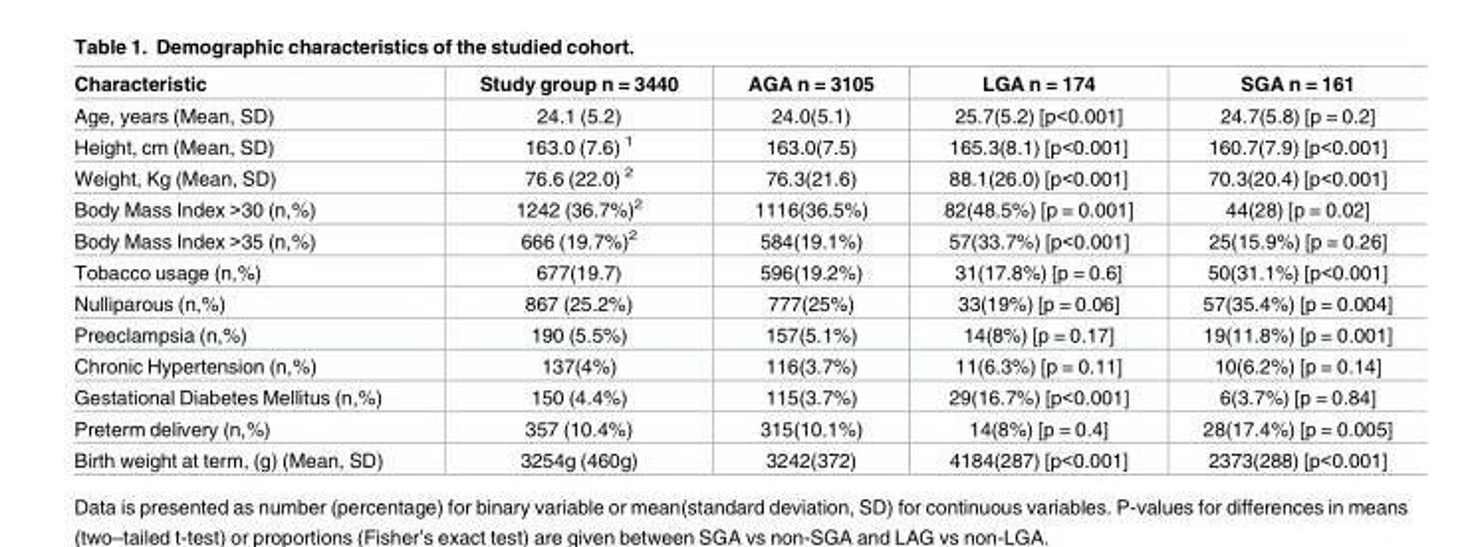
<table><thead><tr><td>Characteristic</td><td>Study group n = 3440</td><td>AGA n = 3105</td><td>LGA n = 174</td><td>SGA n = 161</td></tr></thead><tbody><tr><td>Age, years (Mean, SD)</td><td>24.1 (5.2)</td><td>24.0(5.1)</td><td>25.7(5.2) [p&lt;0.001]</td><td>24.7(5.8) [p = 0.2]</td></tr><tr><td>Height, cm (Mean, SD)</td><td>163.0 (7.6) <sup>1</sup></td><td>163.0(7.5)</td><td>165.3(8.1) [p&lt;0.001]</td><td>160.7(7.9) [p&lt;0.001]</td></tr><tr><td>Weight, Kg (Mean, SD)</td><td>76.6 (22.0) <sup>2</sup></td><td>76.3(21.6)</td><td>88.1(26.0) [p&lt;0.001]</td><td>70.3(20.4) [p&lt;0.001]</td></tr><tr><td>Body Mass Index &gt;30 (n,%)</td><td>1242 (36.7%)<sup>2</sup></td><td>1116(36.5%)</td><td>82(48.5%) [p = 0.001]</td><td>44(28) [p = 0.02]</td></tr><tr><td>Body Mass Index &gt;35 (n,%)</td><td>666 (19.7%)<sup>2</sup></td><td>584(19.1%)</td><td>57(33.7%) [p&lt;0.001]</td><td>25(15.9%) [p = 0.26]</td></tr><tr><td>Tobacco usage (n,%)</td><td>677(19.7)</td><td>596(19.2%)</td><td>31(17.8%) [p = 0.6]</td><td>50(31.1%) [p&lt;0.001]</td></tr><tr><td>Nulliparous (n,%)</td><td>867 (25.2%)</td><td>777(25%)</td><td>33(19%) [p = 0.06]</td><td>57(35.4%) [p = 0.004]</td></tr><tr><td>Preeclampsia (n,%)</td><td>190 (5.5%)</td><td>157(5.1%)</td><td>14(8%) [p = 0.17]</td><td>19(11.8%) [p = 0.001]</td></tr><tr><td>Chronic Hypertension (n,%)</td><td>137(4%)</td><td>116(3.7%)</td><td>11(6.3%) [p = 0.11]</td><td>10(6.2%) [p = 0.14]</td></tr><tr><td>Gestational Diabetes Mellitus (n,%)</td><td>150 (4.4%)</td><td>115(3.7%)</td><td>29(16.7%) [p&lt;0.001]</td><td>6(3.7%) [p = 0.84]</td></tr><tr><td>Preterm delivery (n,%)</td><td>357 (10.4%)</td><td>315(10.1%)</td><td>14(8%) [p = 0.4]</td><td>28(17.4%) [p = 0.005]</td></tr><tr><td>Birth weight at term, (g) (Mean, SD)</td><td>3254g (460g)</td><td>3242(372)</td><td>4184(287) [p&lt;0.001]</td><td>2373(288) [p&lt;0.001]</td></tr></tbody></table>